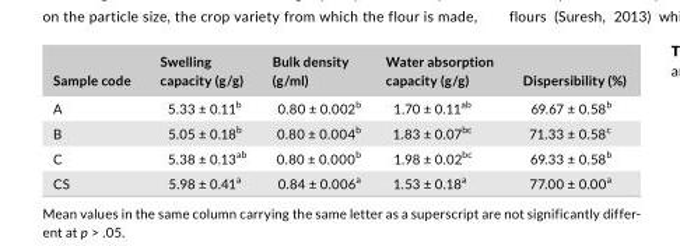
<table><thead><tr><td>Sample code</td><td>Swelling capacity (g/g)</td><td>Bulk density (g/ml)</td><td>Water absorption capacity (g/g)</td><td>Dispersibility (%)</td></tr></thead><tbody><tr><td>A</td><td>5.33 ± 0.11<sup>b</sup></td><td>0.80 ± 0.002<sup>b</sup></td><td>1.70 ± 0.11<sup>ab</sup></td><td>69.67 ± 0.58<sup>b</sup></td></tr><tr><td>B</td><td>5.05 ± 0.18<sup>b</sup></td><td>0.80 ± 0.004<sup>b</sup></td><td>1.83 ± 0.07<sup>bc</sup></td><td>71.33 ± 0.58<sup>c</sup></td></tr><tr><td>C</td><td>5.38 ± 0.13<sup>ab</sup></td><td>0.80 ± 0.000<sup>b</sup></td><td>1.98 ± 0.02<sup>bc</sup></td><td>69.33 ± 0.58<sup>b</sup></td></tr><tr><td>CS</td><td>5.98 ± 0.41<sup>a</sup></td><td>0.84 ± 0.006<sup>a</sup></td><td>1.53 ± 0.18<sup>a</sup></td><td>77.00 ± 0.00<sup>a</sup></td></tr></tbody></table>